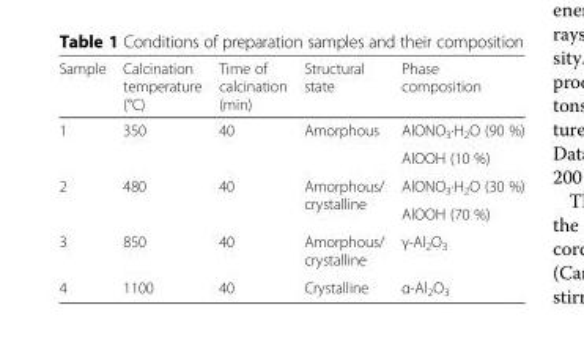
<table><thead><tr><td>Sample</td><td>Calcination temperature (°C)</td><td>Time of calcination (min)</td><td>Structural state</td><td>Phase composition</td></tr></thead><tbody><tr><td rowspan="2">1</td><td rowspan="2">350</td><td rowspan="2">40</td><td rowspan="2">Amorphous</td><td>AlONO<sub>3</sub>·H<sub>2</sub>O (90 %)</td></tr><tr><td>AlOOH (10 %)</td></tr><tr><td rowspan="2">2</td><td rowspan="2">480</td><td rowspan="2">40</td><td rowspan="2">Amorphous/ crystalline</td><td>AlONO<sub>3</sub>·H<sub>2</sub>O (30 %)</td></tr><tr><td>AlOOH (70 %)</td></tr><tr><td>3</td><td>850</td><td>40</td><td>Amorphous/ crystalline</td><td>γ-Al<sub>2</sub>O<sub>3</sub></td></tr><tr><td>4</td><td>1100</td><td>40</td><td>Crystalline</td><td>α-Al<sub>2</sub>O<sub>3</sub></td></tr></tbody></table>